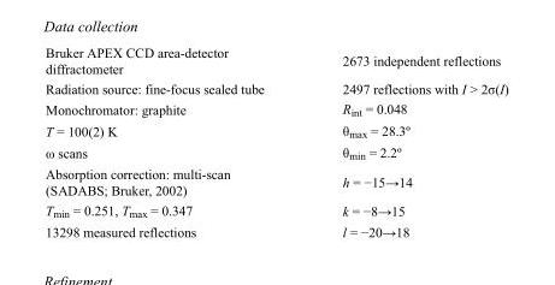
<table><tbody><tr><td>Bruker APEX CCD area-detector diffractometer</td><td>2673 independent reflections</td></tr><tr><td>Radiation source: fine-focus sealed tube</td><td>2497 reflections with I &gt; 2σ(I)</td></tr><tr><td>Monochromator: graphite</td><td>R<sub>int</sub> = 0.048</td></tr><tr><td>T = 100(2) K</td><td>θ<sub>max</sub> = 28.3º</td></tr><tr><td>ω scans</td><td>θ<sub>min</sub> = 2.2º</td></tr><tr><td>Absorption correction: multi-scan (SADABS; Bruker, 2002)</td><td>h = −15→14</td></tr><tr><td>T<sub>min</sub> = 0.251, T<sub>max</sub> = 0.347</td><td>k = −8→15</td></tr><tr><td>13298 measured reflections</td><td>l = −20→18</td></tr></tbody></table>